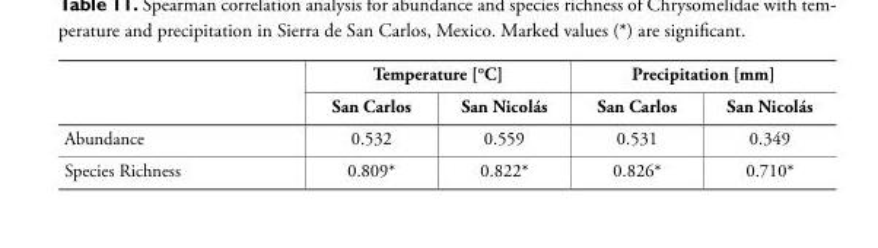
<table><thead><tr><td rowspan="2"></td><td colspan="2">Temperature [°C]</td><td colspan="2">Precipitation [mm]</td></tr><tr><td>San Carlos</td><td>San Nicolás</td><td>San Carlos</td><td>San Nicolás</td></tr></thead><tbody><tr><td>Abundance</td><td>0.532</td><td>0.559</td><td>0.531</td><td>0.349</td></tr><tr><td>Species Richness</td><td>0.809*</td><td>0.822*</td><td>0.826*</td><td>0.710*</td></tr></tbody></table>